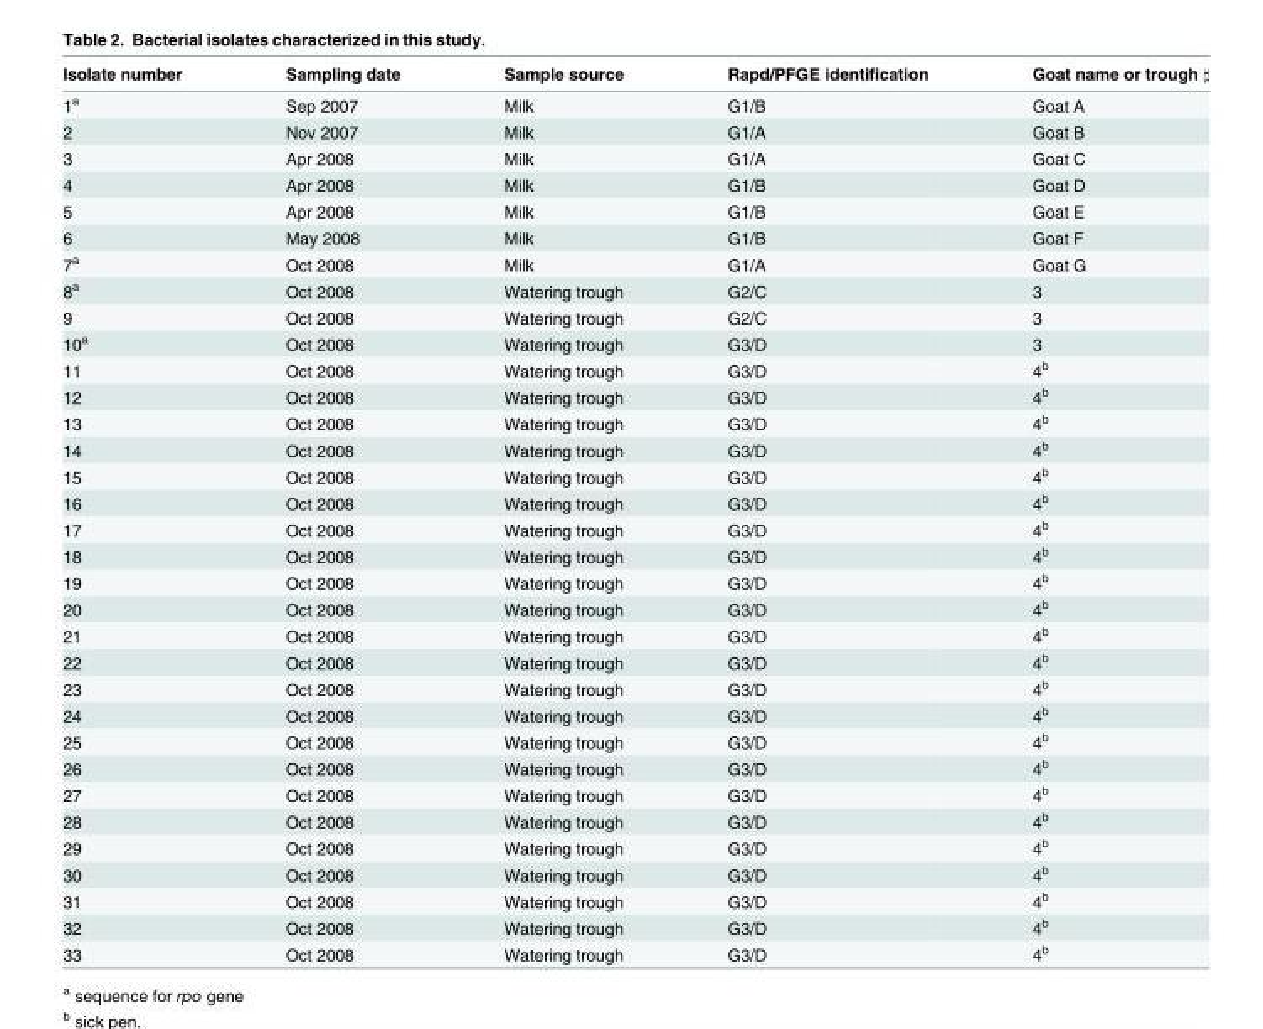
<table><thead><tr><td>Isolate number</td><td>Sampling date</td><td>Sample source</td><td>Rapd/PFGE identification</td><td>Goat name or trough</td></tr></thead><tbody><tr><td>1<sup>a</sup></td><td>Sep 2007</td><td>Milk</td><td>G1/B</td><td>Goat A</td></tr><tr><td>2</td><td>Nov 2007</td><td>Milk</td><td>G1/A</td><td>Goat B</td></tr><tr><td>3</td><td>Apr 2008</td><td>Milk</td><td>G1/A</td><td>Goat C</td></tr><tr><td>4</td><td>Apr 2008</td><td>Milk</td><td>G1/B</td><td>Goat D</td></tr><tr><td>5</td><td>Apr 2008</td><td>Milk</td><td>G1/B</td><td>Goat E</td></tr><tr><td>6</td><td>May 2008</td><td>Milk</td><td>G1/B</td><td>Goat F</td></tr><tr><td>7<sup>a</sup></td><td>Oct 2008</td><td>Milk</td><td>G1/A</td><td>Goat G</td></tr><tr><td>8<sup>a</sup></td><td>Oct 2008</td><td>Watering trough</td><td>G2/C</td><td>3</td></tr><tr><td>9</td><td>Oct 2008</td><td>Watering trough</td><td>G2/C</td><td>3</td></tr><tr><td>10<sup>a</sup></td><td>Oct 2008</td><td>Watering trough</td><td>G3/D</td><td>3</td></tr><tr><td>11</td><td>Oct 2008</td><td>Watering trough</td><td>G3/D</td><td>4<sup>b</sup></td></tr><tr><td>12</td><td>Oct 2008</td><td>Watering trough</td><td>G3/D</td><td>4<sup>b</sup></td></tr><tr><td>13</td><td>Oct 2008</td><td>Watering trough</td><td>G3/D</td><td>4<sup>b</sup></td></tr><tr><td>14</td><td>Oct 2008</td><td>Watering trough</td><td>G3/D</td><td>4<sup>b</sup></td></tr><tr><td>15</td><td>Oct 2008</td><td>Watering trough</td><td>G3/D</td><td>4<sup>b</sup></td></tr><tr><td>16</td><td>Oct 2008</td><td>Watering trough</td><td>G3/D</td><td>4<sup>b</sup></td></tr><tr><td>17</td><td>Oct 2008</td><td>Watering trough</td><td>G3/D</td><td>4<sup>b</sup></td></tr><tr><td>18</td><td>Oct 2008</td><td>Watering trough</td><td>G3/D</td><td>4<sup>b</sup></td></tr><tr><td>19</td><td>Oct 2008</td><td>Watering trough</td><td>G3/D</td><td>4<sup>b</sup></td></tr><tr><td>20</td><td>Oct 2008</td><td>Watering trough</td><td>G3/D</td><td>4<sup>b</sup></td></tr><tr><td>21</td><td>Oct 2008</td><td>Watering trough</td><td>G3/D</td><td>4<sup>b</sup></td></tr><tr><td>22</td><td>Oct 2008</td><td>Watering trough</td><td>G3/D</td><td>4<sup>b</sup></td></tr><tr><td>23</td><td>Oct 2008</td><td>Watering trough</td><td>G3/D</td><td>4<sup>b</sup></td></tr><tr><td>24</td><td>Oct 2008</td><td>Watering trough</td><td>G3/D</td><td>4<sup>b</sup></td></tr><tr><td>25</td><td>Oct 2008</td><td>Watering trough</td><td>G3/D</td><td>4<sup>b</sup></td></tr><tr><td>26</td><td>Oct 2008</td><td>Watering trough</td><td>G3/D</td><td>4<sup>b</sup></td></tr><tr><td>27</td><td>Oct 2008</td><td>Watering trough</td><td>G3/D</td><td>4<sup>b</sup></td></tr><tr><td>28</td><td>Oct 2008</td><td>Watering trough</td><td>G3/D</td><td>4<sup>b</sup></td></tr><tr><td>29</td><td>Oct 2008</td><td>Watering trough</td><td>G3/D</td><td>4<sup>b</sup></td></tr><tr><td>30</td><td>Oct 2008</td><td>Watering trough</td><td>G3/D</td><td>4<sup>b</sup></td></tr><tr><td>31</td><td>Oct 2008</td><td>Watering trough</td><td>G3/D</td><td>4<sup>b</sup></td></tr><tr><td>32</td><td>Oct 2008</td><td>Watering trough</td><td>G3/D</td><td>4<sup>b</sup></td></tr><tr><td>33</td><td>Oct 2008</td><td>Watering trough</td><td>G3/D</td><td>4<sup>b</sup></td></tr></tbody></table>